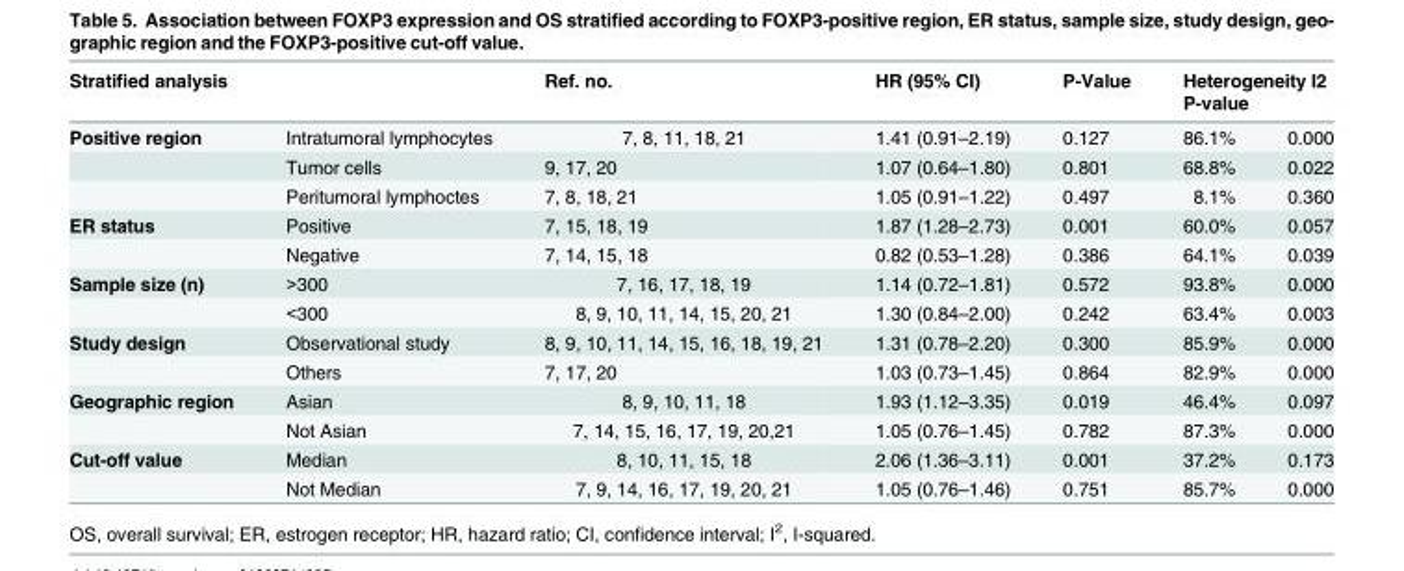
<table><thead><tr><td colspan="2">Stratified analysis</td><td rowspan="2">Ref. no. 7, 8, 11, 18, 21</td><td rowspan="2">HR (95% CI) 1.41 (0.91–2.19)</td><td rowspan="2">P-Value 0.127</td><td colspan="2">Heterogeneity I2 P-value</td></tr><tr><td>Positive region</td><td>Intratumoral lymphocytes</td><td>86.1%</td><td>0.000</td></tr></thead><tbody><tr><td></td><td>Tumor cells</td><td>9, 17, 20</td><td>1.07 (0.64–1.80)</td><td>0.801</td><td>68.8%</td><td>0.022</td></tr><tr><td></td><td>Peritumoral lymphoctes</td><td>7, 8, 18, 21</td><td>1.05 (0.91–1.22)</td><td>0.497</td><td>8.1%</td><td>0.360</td></tr><tr><td rowspan="2">ER status</td><td>Positive</td><td>7, 15, 18, 19</td><td>1.87 (1.28–2.73)</td><td>0.001</td><td>60.0%</td><td>0.057</td></tr><tr><td>Negative</td><td>7, 14, 15, 18</td><td>0.82 (0.53–1.28)</td><td>0.386</td><td>64.1%</td><td>0.039</td></tr><tr><td rowspan="2">Sample size (n)</td><td>&gt;300</td><td>7, 16, 17, 18, 19</td><td>1.14 (0.72–1.81)</td><td>0.572</td><td>93.8%</td><td>0.000</td></tr><tr><td>&lt;300</td><td>8, 9, 10, 11, 14, 15, 20, 21</td><td>1.30 (0.84–2.00)</td><td>0.242</td><td>63.4%</td><td>0.003</td></tr><tr><td rowspan="2">Study design</td><td>Observational study</td><td>8, 9, 10, 11, 14, 15, 16, 18, 19, 21</td><td>1.31 (0.78–2.20)</td><td>0.300</td><td>85.9%</td><td>0.000</td></tr><tr><td>Others</td><td>7, 17, 20</td><td>1.03 (0.73–1.45)</td><td>0.864</td><td>82.9%</td><td>0.000</td></tr><tr><td rowspan="2">Geographic region</td><td>Asian</td><td>8, 9, 10, 11, 18</td><td>1.93 (1.12–3.35)</td><td>0.019</td><td>46.4%</td><td>0.097</td></tr><tr><td>Not Asian</td><td>7, 14, 15, 16, 17, 19, 20,21</td><td>1.05 (0.76–1.45)</td><td>0.782</td><td>87.3%</td><td>0.000</td></tr><tr><td rowspan="2">Cut-off value</td><td>Median</td><td>8, 10, 11, 15, 18</td><td>2.06 (1.36–3.11)</td><td>0.001</td><td>37.2%</td><td>0.173</td></tr><tr><td>Not Median</td><td>7, 9, 14, 16, 17, 19, 20, 21</td><td>1.05 (0.76–1.46)</td><td>0.751</td><td>85.7%</td><td>0.000</td></tr></tbody></table>